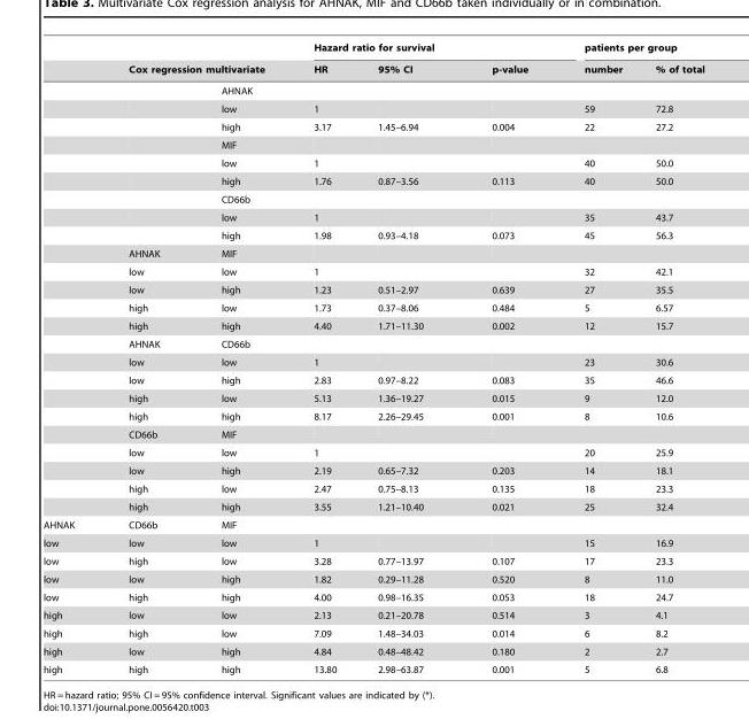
<table><thead><tr><td rowspan="2"></td><td></td><td></td><td colspan="3">Hazard ratio for survival</td><td colspan="2">patients per group</td></tr><tr><td colspan="2">Cox regression multivariate</td><td>HR</td><td>95% CI</td><td>p-value</td><td>number</td><td>% of total</td></tr></thead><tbody><tr><td></td><td></td><td>AHNAK</td><td></td><td></td><td></td><td></td><td></td></tr><tr><td></td><td></td><td>low</td><td>1</td><td></td><td></td><td>59</td><td>72.8</td></tr><tr><td></td><td></td><td>high</td><td>3.17</td><td>1.45–6.94</td><td>0.004</td><td>22</td><td>27.2</td></tr><tr><td></td><td></td><td>MIF</td><td></td><td></td><td></td><td></td><td></td></tr><tr><td></td><td></td><td>low</td><td>1</td><td></td><td></td><td>40</td><td>50.0</td></tr><tr><td></td><td></td><td>high</td><td>1.76</td><td>0.87–3.56</td><td>0.113</td><td>40</td><td>50.0</td></tr><tr><td></td><td></td><td>CD66b</td><td></td><td></td><td></td><td></td><td></td></tr><tr><td></td><td></td><td>low</td><td>1</td><td></td><td></td><td>35</td><td>43.7</td></tr><tr><td></td><td></td><td>high</td><td>1.98</td><td>0.93–4.18</td><td>0.073</td><td>45</td><td>56.3</td></tr><tr><td></td><td>AHNAK</td><td>MIF</td><td></td><td></td><td></td><td></td><td></td></tr><tr><td></td><td>low</td><td>low</td><td>1</td><td></td><td></td><td>32</td><td>42.1</td></tr><tr><td></td><td>low</td><td>high</td><td>1.23</td><td>0.51–2.97</td><td>0.639</td><td>27</td><td>35.5</td></tr><tr><td></td><td>high</td><td>low</td><td>1.73</td><td>0.37–8.06</td><td>0.484</td><td>5</td><td>6.57</td></tr><tr><td></td><td>high</td><td>high</td><td>4.40</td><td>1.71–11.30</td><td>0.002</td><td>12</td><td>15.7</td></tr><tr><td></td><td>AHNAK</td><td>CD66b</td><td></td><td></td><td></td><td></td><td></td></tr><tr><td></td><td>low</td><td>low</td><td>1</td><td></td><td></td><td>23</td><td>30.6</td></tr><tr><td></td><td>low</td><td>high</td><td>2.83</td><td>0.97–8.22</td><td>0.083</td><td>35</td><td>46.6</td></tr><tr><td></td><td>high</td><td>low</td><td>5.13</td><td>1.36–19.27</td><td>0.015</td><td>9</td><td>12.0</td></tr><tr><td></td><td>high</td><td>high</td><td>8.17</td><td>2.26–29.45</td><td>0.001</td><td>8</td><td>10.6</td></tr><tr><td></td><td>CD66b</td><td>MIF</td><td></td><td></td><td></td><td></td><td></td></tr><tr><td></td><td>low</td><td>low</td><td>1</td><td></td><td></td><td>20</td><td>25.9</td></tr><tr><td></td><td>low</td><td>high</td><td>2.19</td><td>0.65–7.32</td><td>0.203</td><td>14</td><td>18.1</td></tr><tr><td></td><td>high</td><td>low</td><td>2.47</td><td>0.75–8.13</td><td>0.135</td><td>18</td><td>23.3</td></tr><tr><td></td><td>high</td><td>high</td><td>3.55</td><td>1.21–10.40</td><td>0.021</td><td>25</td><td>32.4</td></tr><tr><td>AHNAK</td><td>CD66b</td><td>MIF</td><td></td><td></td><td></td><td></td><td></td></tr><tr><td>low</td><td>low</td><td>low</td><td>1</td><td></td><td></td><td>15</td><td>16.9</td></tr><tr><td>low</td><td>high</td><td>low</td><td>3.28</td><td>0.77–13.97</td><td>0.107</td><td>17</td><td>23.3</td></tr><tr><td>low</td><td>low</td><td>high</td><td>1.82</td><td>0.29–11.28</td><td>0.520</td><td>8</td><td>11.0</td></tr><tr><td>low</td><td>high</td><td>high</td><td>4.00</td><td>0.98–16.35</td><td>0.053</td><td>18</td><td>24.7</td></tr><tr><td>high</td><td>low</td><td>low</td><td>2.13</td><td>0.21–20.78</td><td>0.514</td><td>3</td><td>4.1</td></tr><tr><td>high</td><td>high</td><td>low</td><td>7.09</td><td>1.48–34.03</td><td>0.014</td><td>6</td><td>8.2</td></tr><tr><td>high</td><td>low</td><td>high</td><td>4.84</td><td>0.48–48.42</td><td>0.180</td><td>2</td><td>2.7</td></tr><tr><td>high</td><td>high</td><td>high</td><td>13.80</td><td>2.98–63.87</td><td>0.001</td><td>5</td><td>6.8</td></tr></tbody></table>